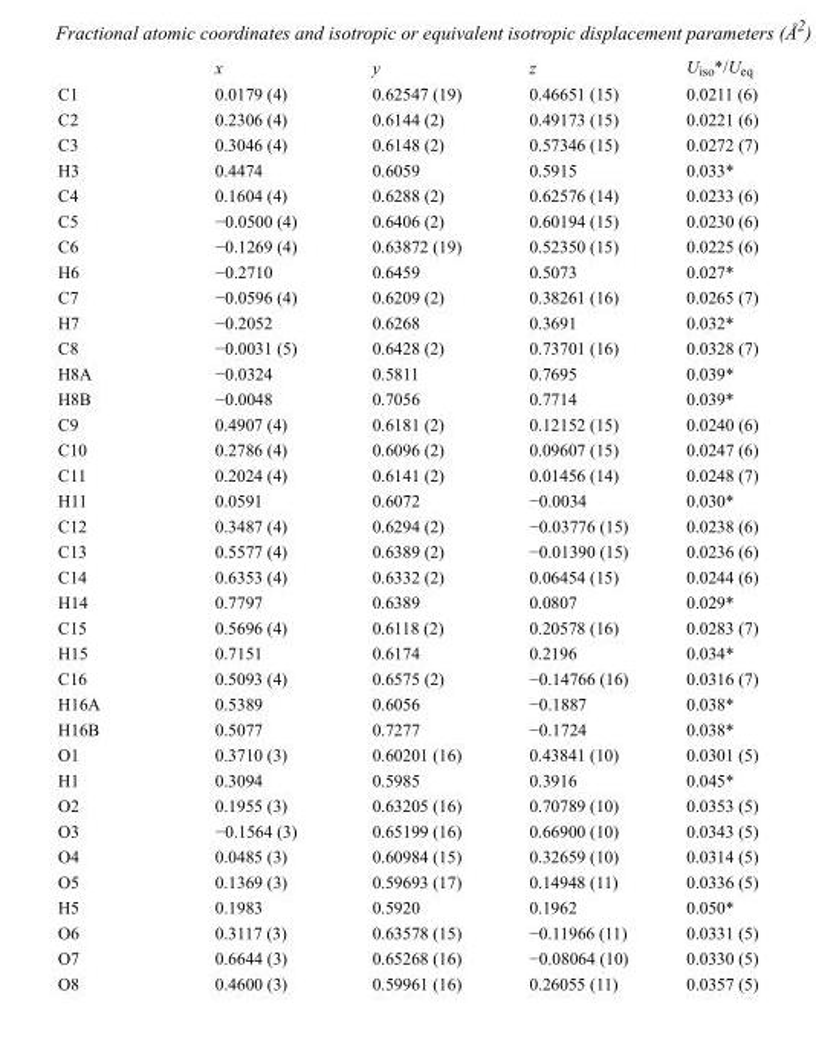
<table><thead><tr><td></td><td>x</td><td>y</td><td>z</td><td>U<sub>iso</sub>*/U<sub>eq</sub></td></tr></thead><tbody><tr><td>C1</td><td>0.0179 (4)</td><td>0.62547 (19)</td><td>0.46651 (15)</td><td>0.0211 (6)</td></tr><tr><td>C2</td><td>0.2306 (4)</td><td>0.6144 (2)</td><td>0.49173 (15)</td><td>0.0221 (6)</td></tr><tr><td>C3</td><td>0.3046 (4)</td><td>0.6148 (2)</td><td>0.57346 (15)</td><td>0.0272 (7)</td></tr><tr><td>H3</td><td>0.4474</td><td>0.6059</td><td>0.5915</td><td>0.033*</td></tr><tr><td>C4</td><td>0.1604 (4)</td><td>0.6288 (2)</td><td>0.62576 (14)</td><td>0.0233 (6)</td></tr><tr><td>C5</td><td>−0.0500 (4)</td><td>0.6406 (2)</td><td>0.60194 (15)</td><td>0.0230 (6)</td></tr><tr><td>C6</td><td>−0.1269 (4)</td><td>0.63872 (19)</td><td>0.52350 (15)</td><td>0.0225 (6)</td></tr><tr><td>H6</td><td>−0.2710</td><td>0.6459</td><td>0.5073</td><td>0.027*</td></tr><tr><td>C7</td><td>−0.0596 (4)</td><td>0.6209 (2)</td><td>0.38261 (16)</td><td>0.0265 (7)</td></tr><tr><td>H7</td><td>−0.2052</td><td>0.6268</td><td>0.3691</td><td>0.032*</td></tr><tr><td>C8</td><td>−0.0031 (5)</td><td>0.6428 (2)</td><td>0.73701 (16)</td><td>0.0328 (7)</td></tr><tr><td>H8A</td><td>−0.0324</td><td>0.5811</td><td>0.7695</td><td>0.039*</td></tr><tr><td>H8B</td><td>−0.0048</td><td>0.7056</td><td>0.7714</td><td>0.039*</td></tr><tr><td>C9</td><td>0.4907 (4)</td><td>0.6181 (2)</td><td>0.12152 (15)</td><td>0.0240 (6)</td></tr><tr><td>C10</td><td>0.2786 (4)</td><td>0.6096 (2)</td><td>0.09607 (15)</td><td>0.0247 (6)</td></tr><tr><td>C11</td><td>0.2024 (4)</td><td>0.6141 (2)</td><td>0.01456 (14)</td><td>0.0248 (7)</td></tr><tr><td>H11</td><td>0.0591</td><td>0.6072</td><td>−0.0034</td><td>0.030*</td></tr><tr><td>C12</td><td>0.3487 (4)</td><td>0.6294 (2)</td><td>−0.03776 (15)</td><td>0.0238 (6)</td></tr><tr><td>C13</td><td>0.5577 (4)</td><td>0.6389 (2)</td><td>−0.01390 (15)</td><td>0.0236 (6)</td></tr><tr><td>C14</td><td>0.6353 (4)</td><td>0.6332 (2)</td><td>0.06454 (15)</td><td>0.0244 (6)</td></tr><tr><td>H14</td><td>0.7797</td><td>0.6389</td><td>0.0807</td><td>0.029*</td></tr><tr><td>C15</td><td>0.5696 (4)</td><td>0.6118 (2)</td><td>0.20578 (16)</td><td>0.0283 (7)</td></tr><tr><td>H15</td><td>0.7151</td><td>0.6174</td><td>0.2196</td><td>0.034*</td></tr><tr><td>C16</td><td>0.5093 (4)</td><td>0.6575 (2)</td><td>−0.14766 (16)</td><td>0.0316 (7)</td></tr><tr><td>H16A</td><td>0.5389</td><td>0.6056</td><td>−0.1887</td><td>0.038*</td></tr><tr><td>H16B</td><td>0.5077</td><td>0.7277</td><td>−0.1724</td><td>0.038*</td></tr><tr><td>O1</td><td>0.3710 (3)</td><td>0.60201 (16)</td><td>0.43841 (10)</td><td>0.0301 (5)</td></tr><tr><td>H1</td><td>0.3094</td><td>0.5985</td><td>0.3916</td><td>0.045*</td></tr><tr><td>O2</td><td>0.1955 (3)</td><td>0.63205 (16)</td><td>0.70789 (10)</td><td>0.0353 (5)</td></tr><tr><td>O3</td><td>−0.1564 (3)</td><td>0.65199 (16)</td><td>0.66900 (10)</td><td>0.0343 (5)</td></tr><tr><td>O4</td><td>0.0485 (3)</td><td>0.60984 (15)</td><td>0.32659 (10)</td><td>0.0314 (5)</td></tr><tr><td>O5</td><td>0.1369 (3)</td><td>0.59693 (17)</td><td>0.14948 (11)</td><td>0.0336 (5)</td></tr><tr><td>H5</td><td>0.1983</td><td>0.5920</td><td>0.1962</td><td>0.050*</td></tr><tr><td>O6</td><td>0.3117 (3)</td><td>0.63578 (15)</td><td>−0.11966 (11)</td><td>0.0331 (5)</td></tr><tr><td>O7</td><td>0.6644 (3)</td><td>0.65268 (16)</td><td>−0.08064 (10)</td><td>0.0330 (5)</td></tr><tr><td>O8</td><td>0.4600 (3)</td><td>0.59961 (16)</td><td>0.26055 (11)</td><td>0.0357 (5)</td></tr></tbody></table>